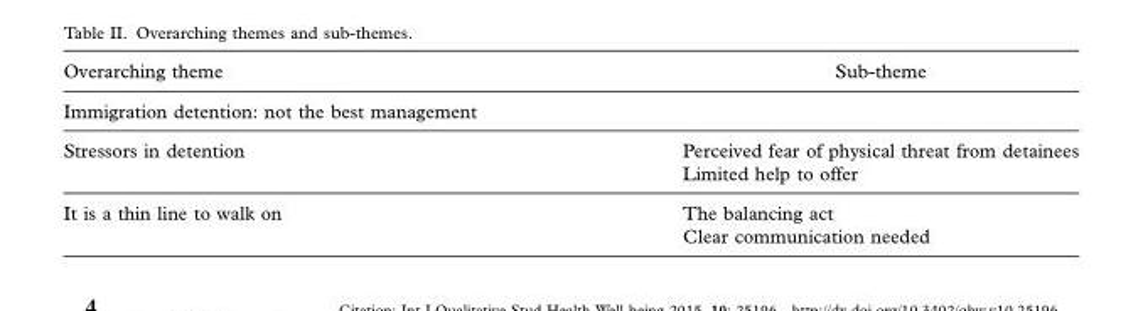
<table><thead><tr><td>Overarching theme</td><td>Sub-theme</td></tr></thead><tbody><tr><td colspan="2">Immigration detention: not the best management</td></tr><tr><td>Stressors in detention</td><td>Perceived fear of physical threat from detainees Limited help to offer</td></tr><tr><td>It is a thin line to walk on</td><td>The balancing act Clear communication needed</td></tr></tbody></table>